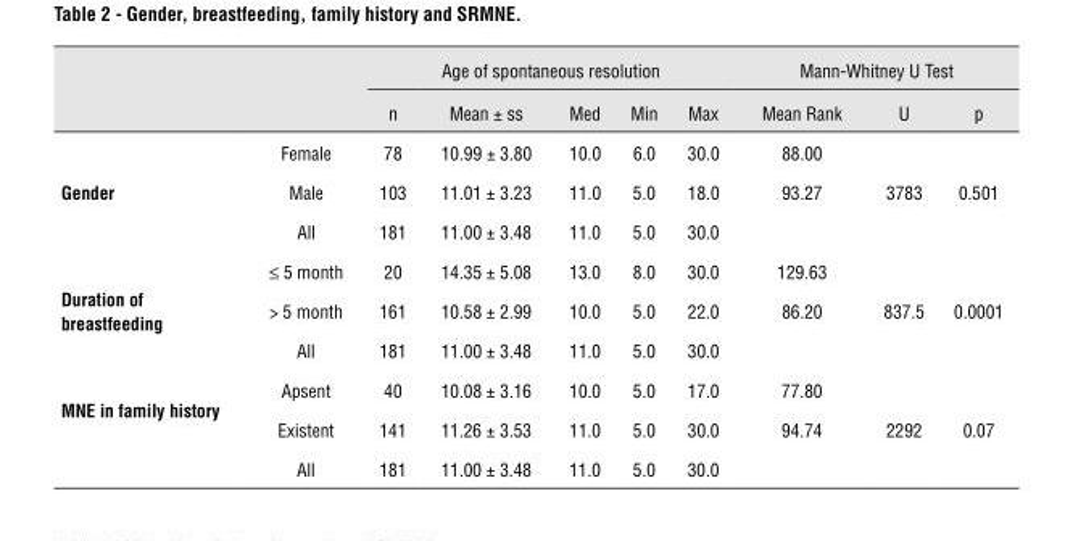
<table><thead><tr><td rowspan="2"></td><td rowspan="2"></td><td colspan="5">Age of spontaneous resolution</td><td colspan="3">Mann-Whitney U Test</td></tr><tr><td>n</td><td>Mean ± ss</td><td>Med</td><td>Min</td><td>Max</td><td>Mean Rank</td><td>U</td><td>p</td></tr></thead><tbody><tr><td rowspan="3">gender</td><td>Female</td><td>78</td><td>10.99 ± 3.80</td><td>10.0</td><td>6.0</td><td>30.0</td><td>88.00</td><td rowspan="3">3783</td><td rowspan="3">0.501</td></tr><tr><td>Male</td><td>103</td><td>11.01 ± 3.23</td><td>11.0</td><td>5.0</td><td>18.0</td><td>93.27</td></tr><tr><td>All</td><td>181</td><td>11.00 ± 3.48</td><td>11.0</td><td>5.0</td><td>30.0</td><td></td></tr><tr><td rowspan="3">Duration of breastfeeding</td><td>≤ 5 month</td><td>20</td><td>14.35 ± 5.08</td><td>13.0</td><td>8.0</td><td>30.0</td><td>129.63</td><td rowspan="3">837.5</td><td rowspan="3">0.0001</td></tr><tr><td>&gt; 5 month</td><td>161</td><td>10.58 ± 2.99</td><td>10.0</td><td>5.0</td><td>22.0</td><td>86.20</td></tr><tr><td>All</td><td>181</td><td>11.00 ± 3.48</td><td>11.0</td><td>5.0</td><td>30.0</td><td></td></tr><tr><td rowspan="3">MnE in family history</td><td>Apsent</td><td>40</td><td>10.08 ± 3.16</td><td>10.0</td><td>5.0</td><td>17.0</td><td>77.80</td><td rowspan="3">2292</td><td rowspan="3">0.07</td></tr><tr><td>Existent</td><td>141</td><td>11.26 ± 3.53</td><td>11.0</td><td>5.0</td><td>30.0</td><td>94.74</td></tr><tr><td>All</td><td>181</td><td>11.00 ± 3.48</td><td>11.0</td><td>5.0</td><td>30.0</td><td></td></tr></tbody></table>